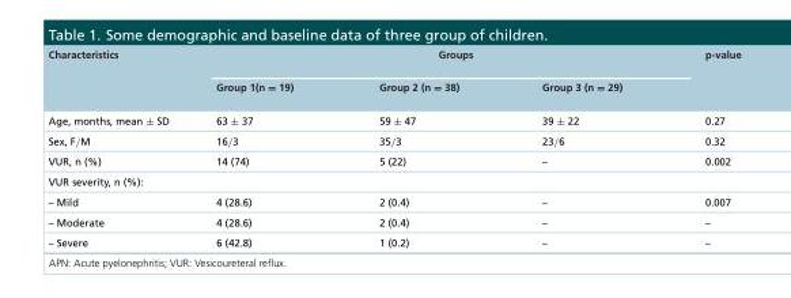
<table><thead><tr><td rowspan="2">Characteristics</td><td colspan="3">Groups</td><td rowspan="2">p-value</td></tr><tr><td>Group 1(n = 19)</td><td>Group 2 (n = 38)</td><td>Group 3 (n = 29)</td></tr></thead><tbody><tr><td>Age, months, mean ± SD</td><td>63 ± 37</td><td>59 ± 47</td><td>39 ± 22</td><td>0.27</td></tr><tr><td>Sex, F/M</td><td>16/3</td><td>35/3</td><td>23/6</td><td>0.32</td></tr><tr><td>VUR, n (%)</td><td>14 (74)</td><td>5 (22)</td><td>–</td><td>0.002</td></tr><tr><td colspan="5">VUR severity, n (%):</td></tr><tr><td>– Mild</td><td>4 (28.6)</td><td>2 (0.4)</td><td>–</td><td>0.007</td></tr><tr><td>– Moderate</td><td>4 (28.6)</td><td>2 (0.4)</td><td>–</td><td>–</td></tr><tr><td>– Severe</td><td>6 (42.8)</td><td>1 (0.2)</td><td>–</td><td>–</td></tr></tbody></table>